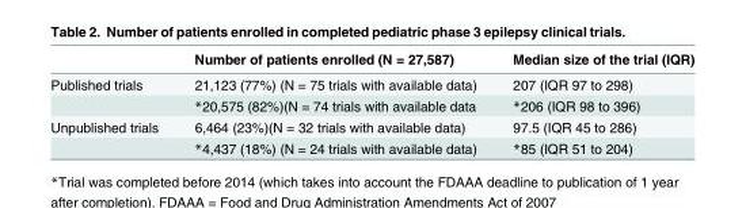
<table><thead><tr><td></td><td>Number of patients enrolled (N = 27,587)</td><td>Median size of the trial (IQR)</td></tr></thead><tbody><tr><td rowspan="2">Published trials</td><td>21,123 (77%) (N = 75 trials with available data)</td><td>207 (IQR 97 to 298)</td></tr><tr><td>*20,575 (82%)(N = 74 trials with available data</td><td>*206 (IQR 98 to 396)</td></tr><tr><td rowspan="2">Unpublished trials</td><td>6,464 (23%)(N = 32 trials with available data)</td><td>97.5 (IQR 45 to 286)</td></tr><tr><td>*4,437 (18%) (N = 24 trials with available data)</td><td>*85 (IQR 51 to 204)</td></tr></tbody></table>